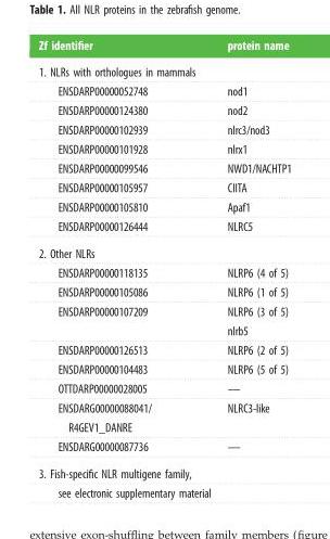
<table><thead><tr><td>Zf identifier</td><td>protein name</td></tr></thead><tbody><tr><td colspan="2">1. NLRs with orthologues in mammals</td></tr><tr><td>ENSDARP00000052748</td><td>nod1</td></tr><tr><td>ENSDARP00000124380</td><td>nod2</td></tr><tr><td>ENSDARP00000102939</td><td>nlrc3/nod3</td></tr><tr><td>ENSDARP00000101928</td><td>nlrx1</td></tr><tr><td>ENSDARP00000099546</td><td>NWD1/NACHTP1</td></tr><tr><td>ENSDARP00000105957</td><td>CIITA</td></tr><tr><td>ENSDARP00000105810</td><td>Apaf1</td></tr><tr><td>ENSDARP00000126444</td><td>NLRC5</td></tr><tr><td colspan="2">2. Other NLRs</td></tr><tr><td>ENSDARP00000118135</td><td>NLRP6 (4 of 5)</td></tr><tr><td>ENSDARP00000105086</td><td>NLRP6 (1 of 5)</td></tr><tr><td>ENSDARP00000107209</td><td>NLRP6 (3 of 5) nlrb5</td></tr><tr><td>ENSDARP00000126513</td><td>NLRP6 (2 of 5)</td></tr><tr><td>ENSDARP00000104483</td><td>NLRP6 (5 of 5)</td></tr><tr><td>OTTDARP00000028005</td><td>—</td></tr><tr><td>ENSDARG00000088041/ R4GEV1_DANRE</td><td>NLRC3-like</td></tr><tr><td>ENSDARG00000087736</td><td>—</td></tr><tr><td colspan="2">3. Fish-specific NLR multigene family,</td></tr><tr><td>see electronic supplementary material</td><td></td></tr></tbody></table>